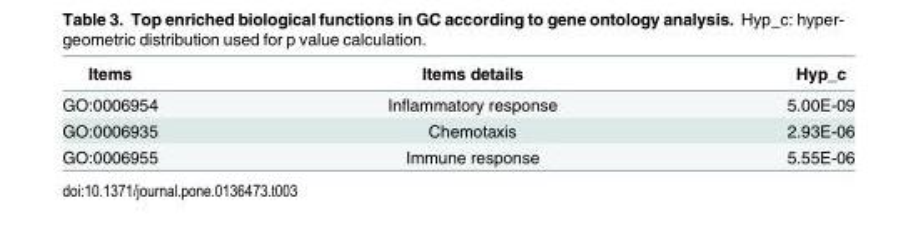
<table><thead><tr><td>Items</td><td>Items details</td><td>Hyp_c</td></tr></thead><tbody><tr><td>GO:0006954</td><td>Inflammatory response</td><td>5.00E-09</td></tr><tr><td>GO:0006935</td><td>Chemotaxis</td><td>2.93E-06</td></tr><tr><td>GO:0006955</td><td>Immune response</td><td>5.55E-06</td></tr></tbody></table>